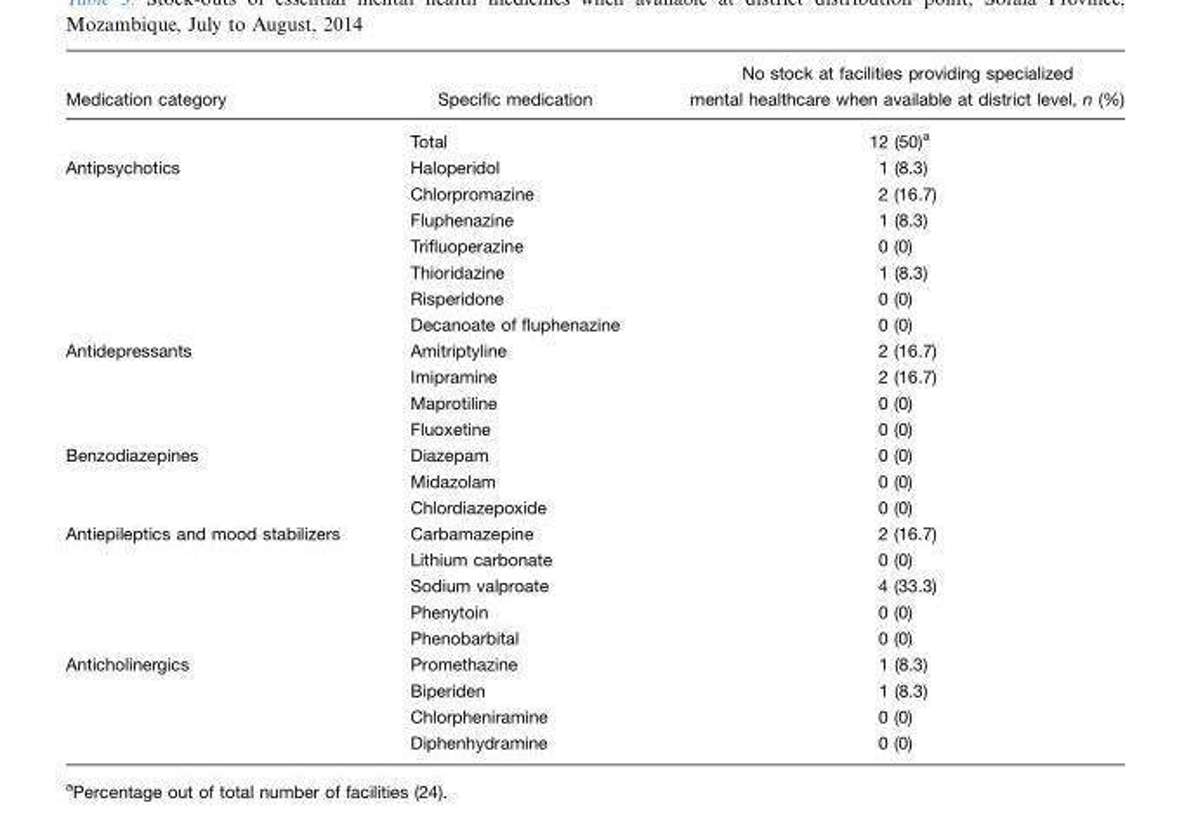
<table><thead><tr><td>Medication category</td><td>Specific medication</td><td>No stock at facilities providing specialized mental healthcare when available at district level, n (%)</td></tr></thead><tbody><tr><td></td><td>Total</td><td>12 (50)<sup>a</sup></td></tr><tr><td rowspan="7">Antipsychotics</td><td>Haloperidol</td><td>1 (8.3)</td></tr><tr><td>Chlorpromazine</td><td>2 (16.7)</td></tr><tr><td>Fluphenazine</td><td>1 (8.3)</td></tr><tr><td>Trifluoperazine</td><td>0 (0)</td></tr><tr><td>Thioridazine</td><td>1 (8.3)</td></tr><tr><td>Risperidone</td><td>0 (0)</td></tr><tr><td>Decanoate of fluphenazine</td><td>0 (0)</td></tr><tr><td rowspan="4">Antidepressants</td><td>Amitriptyline</td><td>2 (16.7)</td></tr><tr><td>Imipramine</td><td>2 (16.7)</td></tr><tr><td>Maprotiline</td><td>0 (0)</td></tr><tr><td>Fluoxetine</td><td>0 (0)</td></tr><tr><td rowspan="3">Benzodiazepines</td><td>Diazepam</td><td>0 (0)</td></tr><tr><td>Midazolam</td><td>0 (0)</td></tr><tr><td>Chlordiazepoxide</td><td>0 (0)</td></tr><tr><td rowspan="5">Antiepileptics and mood stabilizers</td><td>Carbamazepine</td><td>2 (16.7)</td></tr><tr><td>Lithium carbonate</td><td>0 (0)</td></tr><tr><td>Sodium valproate</td><td>4 (33.3)</td></tr><tr><td>Phenytoin</td><td>0 (0)</td></tr><tr><td>Phenobarbital</td><td>0 (0)</td></tr><tr><td rowspan="4">Anticholinergics</td><td>Promethazine</td><td>1 (8.3)</td></tr><tr><td>Biperiden</td><td>1 (8.3)</td></tr><tr><td>Chlorpheniramine</td><td>0 (0)</td></tr><tr><td>Diphenhydramine</td><td>0 (0)</td></tr></tbody></table>